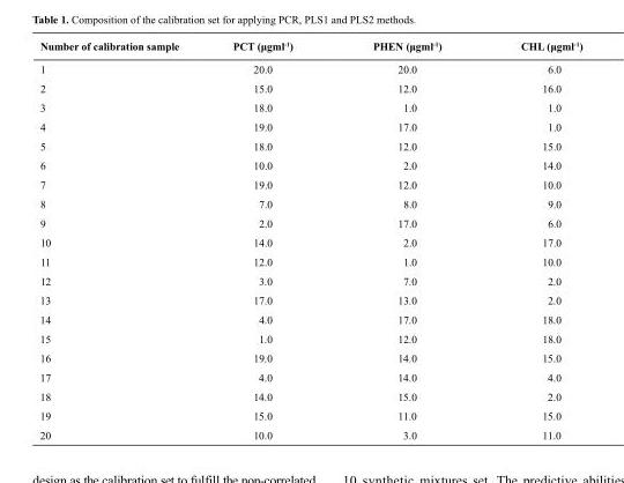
<table><thead><tr><td>Number of calibration sample</td><td>PCT (μgml-1)</td><td>PHEN (μgml-1)</td><td>CHL (μgml-1)</td></tr></thead><tbody><tr><td>1</td><td>20.0</td><td>20.0</td><td>6.0</td></tr><tr><td>2</td><td>15.0</td><td>12.0</td><td>16.0</td></tr><tr><td>3</td><td>18.0</td><td>1.0</td><td>1.0</td></tr><tr><td>4</td><td>19.0</td><td>17.0</td><td>1.0</td></tr><tr><td>5</td><td>18.0</td><td>12.0</td><td>15.0</td></tr><tr><td>6</td><td>10.0</td><td>2.0</td><td>14.0</td></tr><tr><td>7</td><td>19.0</td><td>12.0</td><td>10.0</td></tr><tr><td>8</td><td>7.0</td><td>8.0</td><td>9.0</td></tr><tr><td>9</td><td>2.0</td><td>17.0</td><td>6.0</td></tr><tr><td>10</td><td>14.0</td><td>2.0</td><td>17.0</td></tr><tr><td>11</td><td>12.0</td><td>1.0</td><td>10.0</td></tr><tr><td>12</td><td>3.0</td><td>7.0</td><td>2.0</td></tr><tr><td>13</td><td>17.0</td><td>13.0</td><td>2.0</td></tr><tr><td>14</td><td>4.0</td><td>17.0</td><td>18.0</td></tr><tr><td>15</td><td>1.0</td><td>12.0</td><td>18.0</td></tr><tr><td>16</td><td>19.0</td><td>14.0</td><td>15.0</td></tr><tr><td>17</td><td>4.0</td><td>14.0</td><td>4.0</td></tr><tr><td>18</td><td>14.0</td><td>15.0</td><td>2.0</td></tr><tr><td>19</td><td>15.0</td><td>11.0</td><td>15.0</td></tr><tr><td>20</td><td>10.0</td><td>3.0</td><td>11.0</td></tr></tbody></table>